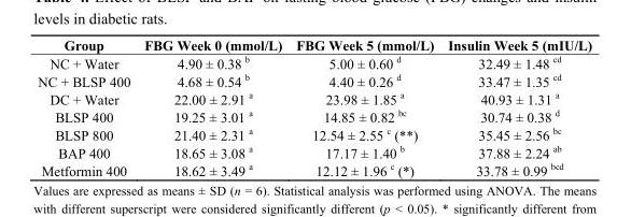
<table><thead><tr><td>Group</td><td>FBG Week 0 (mmol/L)</td><td>FBG Week 5 (mmol/L)</td><td>Insulin Week 5 (mIU/L)</td></tr></thead><tbody><tr><td>NC + Water</td><td>4.90 ± 0.38 <sup>b</sup></td><td>5.00 ± 0.60 <sup>d</sup></td><td>32.49 ± 1.48 <sup>cd</sup></td></tr><tr><td>NC + BLSP 400</td><td>4.68 ± 0.54 <sup>b</sup></td><td>4.40 ± 0.26 <sup>d</sup></td><td>33.47 ± 1.35 <sup>cd</sup></td></tr><tr><td>DC + Water</td><td>22.00 ± 2.91 <sup>a</sup></td><td>23.98 ± 1.85 <sup>a</sup></td><td>40.93 ± 1.31 <sup>a</sup></td></tr><tr><td>BLSP 400</td><td>19.25 ± 3.01 <sup>a</sup></td><td>14.85 ± 0.82 <sup>bc</sup></td><td>30.74 ± 0.38 <sup>d</sup></td></tr><tr><td>BLSP 800</td><td>21.40 ± 2.31 <sup>a</sup></td><td>12.54 ± 2.55 <sup>c</sup> (**)</td><td>35.45 ± 2.56 <sup>bc</sup></td></tr><tr><td>BAP 400</td><td>18.65 ± 3.08 <sup>a</sup></td><td>17.17 ± 1.40 <sup>b</sup></td><td>37.88 ± 2.24 <sup>ab</sup></td></tr><tr><td>Metformin 400</td><td>18.62 ± 3.49 <sup>a</sup></td><td>12.12 ± 1.96 <sup>c</sup> (*)</td><td>33.78 ± 0.99 <sup>bcd</sup></td></tr></tbody></table>